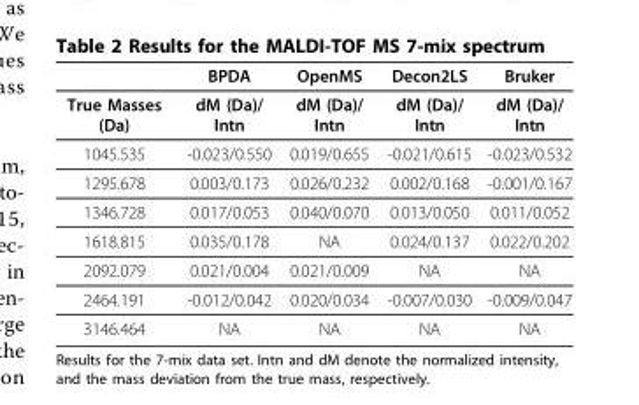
<table><thead><tr><td></td><td>BPDA</td><td>OpenMS</td><td>Decon2LS</td><td>Bruker</td></tr></thead><tbody><tr><td>True Masses (Da)</td><td>dM (Da)/ Intn</td><td>dM (Da)/ Intn</td><td>dM (Da)/ Intn</td><td>dM (Da)/ Intn</td></tr><tr><td>1045.535</td><td>-0.023/0.550</td><td>0.019/0.655</td><td>-0.021/0.615</td><td>-0.023/0.532</td></tr><tr><td>1295.678</td><td>0.003/0.173</td><td>0.026/0.232</td><td>0.002/0.168</td><td>-0.001/0.167</td></tr><tr><td>1346.728</td><td>0.017/0.053</td><td>0.040/0.070</td><td>0.013/0.050</td><td>0.011/0.052</td></tr><tr><td>1618.815</td><td>0.035/0.178</td><td>NA</td><td>0.024/0.137</td><td>0.022/0.202</td></tr><tr><td>2092.079</td><td>0.021/0.004</td><td>0.021/0.009</td><td>NA</td><td>NA</td></tr><tr><td>2464.191</td><td>-0.012/0.042</td><td>0.020/0.034</td><td>-0.007/0.030</td><td>-0.009/0.047</td></tr><tr><td>3146.464</td><td>NA</td><td>NA</td><td>NA</td><td>NA</td></tr></tbody></table>